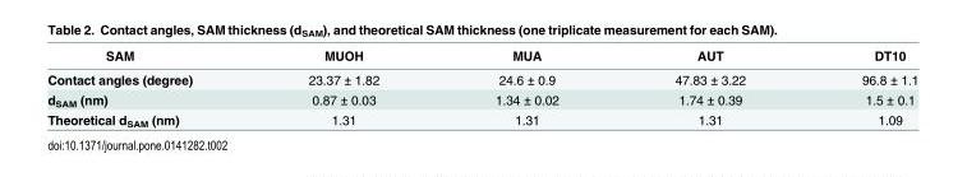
<table><thead><tr><td>SAM</td><td>MUOH</td><td>MUA</td><td>AUT</td><td>DT10</td></tr></thead><tbody><tr><td>Contact angles (degree)</td><td>23.37 ± 1.82</td><td>24.6 ± 0.9</td><td>47.83 ± 3.22</td><td>96.8 ± 1.1</td></tr><tr><td>d<sub>SAM</sub> (nm)</td><td>0.87 ± 0.03</td><td>1.34 ± 0.02</td><td>1.74 ± 0.39</td><td>1.5 ± 0.1</td></tr><tr><td>Theoretical d<sub>SAM</sub> (nm)</td><td>1.31</td><td>1.31</td><td>1.31</td><td>1.09</td></tr></tbody></table>